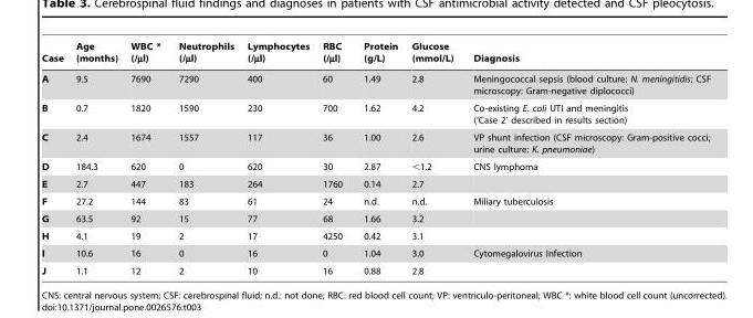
<table><thead><tr><td>Case</td><td>Age (months)</td><td>WBC * (/µl)</td><td>Neutrophils (/µl)</td><td>Lymphocytes (/µl)</td><td>RBC (/µl)</td><td>Protein (g/L)</td><td>Glucose (mmol/L)</td><td>Diagnosis</td></tr></thead><tbody><tr><td>A</td><td>9.5</td><td>7690</td><td>7290</td><td>400</td><td>60</td><td>1.49</td><td>2.8</td><td>Meningococcal sepsis (blood culture: N. meningitidis; CSF microscopy: Gram-negative diplococci)</td></tr><tr><td>B</td><td>0.7</td><td>1820</td><td>1590</td><td>230</td><td>700</td><td>1.62</td><td>4.2</td><td>Co-existing E. coli UTI and meningitis (‘Case 2’ described in results section)</td></tr><tr><td>C</td><td>2.4</td><td>1674</td><td>1557</td><td>117</td><td>36</td><td>1.00</td><td>2.6</td><td>VP shunt infection (CSF microscopy: Gram-positive cocci; urine culture: K. pneumoniae)</td></tr><tr><td>D</td><td>184.3</td><td>620</td><td>0</td><td>620</td><td>30</td><td>2.87</td><td>&lt;1.2</td><td>CNS lymphoma</td></tr><tr><td>E</td><td>2.7</td><td>447</td><td>183</td><td>264</td><td>1760</td><td>0.14</td><td>2.7</td><td></td></tr><tr><td>F</td><td>27.2</td><td>144</td><td>83</td><td>61</td><td>24</td><td>n.d.</td><td>n.d.</td><td>Miliary tuberculosis</td></tr><tr><td>G</td><td>63.5</td><td>92</td><td>15</td><td>77</td><td>68</td><td>1.66</td><td>3.2</td><td></td></tr><tr><td>H</td><td>4.1</td><td>19</td><td>2</td><td>17</td><td>4250</td><td>0.42</td><td>3.1</td><td></td></tr><tr><td>I</td><td>10.6</td><td>16</td><td>0</td><td>16</td><td>0</td><td>1.04</td><td>3.0</td><td>Cytomegalovirus Infection</td></tr><tr><td>J</td><td>1.1</td><td>12</td><td>2</td><td>10</td><td>16</td><td>0.88</td><td>2.8</td><td></td></tr></tbody></table>